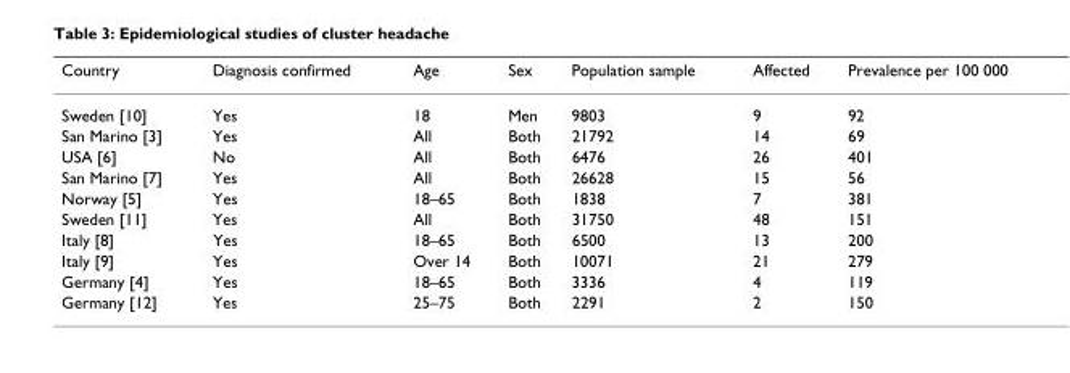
<table><thead><tr><td>Country</td><td>Diagnosis confirmed</td><td>Age</td><td>Sex</td><td>Population sample</td><td>Affected</td><td>Prevalence per 100 000</td></tr></thead><tbody><tr><td>Sweden [10]</td><td>Yes</td><td>18</td><td>Men</td><td>9803</td><td>9</td><td>92</td></tr><tr><td>San Marino [3]</td><td>Yes</td><td>All</td><td>Both</td><td>21792</td><td>14</td><td>69</td></tr><tr><td>USA [6]</td><td>No</td><td>All</td><td>Both</td><td>6476</td><td>26</td><td>401</td></tr><tr><td>San Marino [7]</td><td>Yes</td><td>All</td><td>Both</td><td>26628</td><td>15</td><td>56</td></tr><tr><td>Norway [5]</td><td>Yes</td><td>18–65</td><td>Both</td><td>1838</td><td>7</td><td>381</td></tr><tr><td>Sweden [11]</td><td>Yes</td><td>All</td><td>Both</td><td>31750</td><td>48</td><td>151</td></tr><tr><td>Italy [8]</td><td>Yes</td><td>18–65</td><td>Both</td><td>6500</td><td>13</td><td>200</td></tr><tr><td>Italy [9]</td><td>Yes</td><td>Over 14</td><td>Both</td><td>10071</td><td>21</td><td>279</td></tr><tr><td>Germany [4]</td><td>Yes</td><td>18–65</td><td>Both</td><td>3336</td><td>4</td><td>119</td></tr><tr><td>Germany [12]</td><td>Yes</td><td>25–75</td><td>Both</td><td>2291</td><td>2</td><td>150</td></tr></tbody></table>